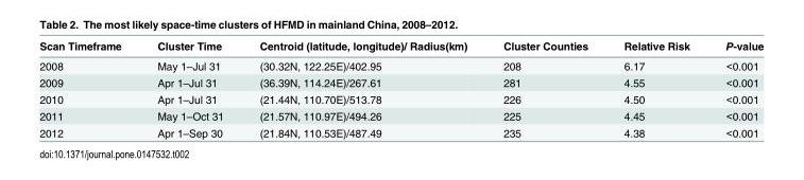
<table><thead><tr><td>Scan Timeframe</td><td>Cluster Time</td><td>Centroid (latitude, longitude)/ Radius(km)</td><td>Cluster Counties</td><td>Relative Risk</td><td>P-value</td></tr></thead><tbody><tr><td>2008</td><td>May 1–Jul 31</td><td>(30.32N, 122.25E)/402.95</td><td>208</td><td>6.17</td><td>&lt;0.001</td></tr><tr><td>2009</td><td>Apr 1–Jul 31</td><td>(36.39N, 114.24E)/267.61</td><td>281</td><td>4.55</td><td>&lt;0.001</td></tr><tr><td>2010</td><td>Apr 1–Jul 31</td><td>(21.44N, 110.70E)/513.78</td><td>226</td><td>4.50</td><td>&lt;0.001</td></tr><tr><td>2011</td><td>May 1–Oct 31</td><td>(21.57N, 110.97E)/494.26</td><td>225</td><td>4.45</td><td>&lt;0.001</td></tr><tr><td>2012</td><td>Apr 1–Sep 30</td><td>(21.84N, 110.53E)/487.49</td><td>235</td><td>4.38</td><td>&lt;0.001</td></tr></tbody></table>